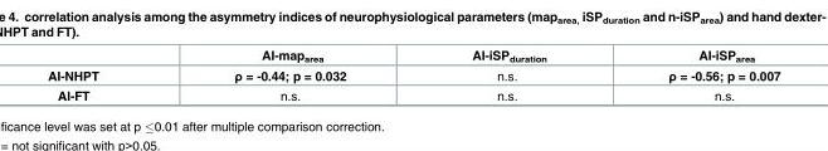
<table><thead><tr><td></td><td>AI-map<sub>area</sub></td><td>AI-iSP<sub>duration</sub></td><td>AI-iSP<sub>area</sub></td></tr></thead><tbody><tr><td>AI-NHPT</td><td>ρ = -0.44; p = 0.032</td><td>n.s.</td><td>ρ = -0.56; p = 0.007</td></tr><tr><td>AI-FT</td><td>n.s.</td><td>n.s.</td><td>n.s.</td></tr></tbody></table>